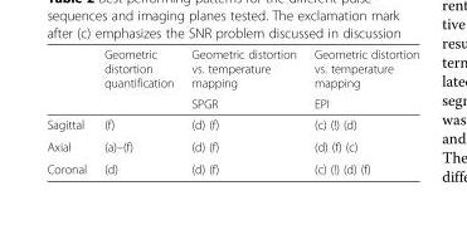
<table><thead><tr><td rowspan="2"></td><td rowspan="2">Geometric distortion quantification</td><td rowspan="2">Geometric distortion vs. temperature mapping SPGR</td><td rowspan="2">Geometric distortion vs. temperature mapping EPI</td></tr><tr></tr></thead><tbody><tr><td>Sagittal</td><td>(f)</td><td>(d) (f)</td><td>(c) (!) (d)</td></tr><tr><td>Axial</td><td>(a)–(f)</td><td>(d) (f)</td><td>(d) (f) (c)</td></tr><tr><td>Coronal</td><td>(d)</td><td>(d) (f)</td><td>(c) (!) (d) (f)</td></tr></tbody></table>